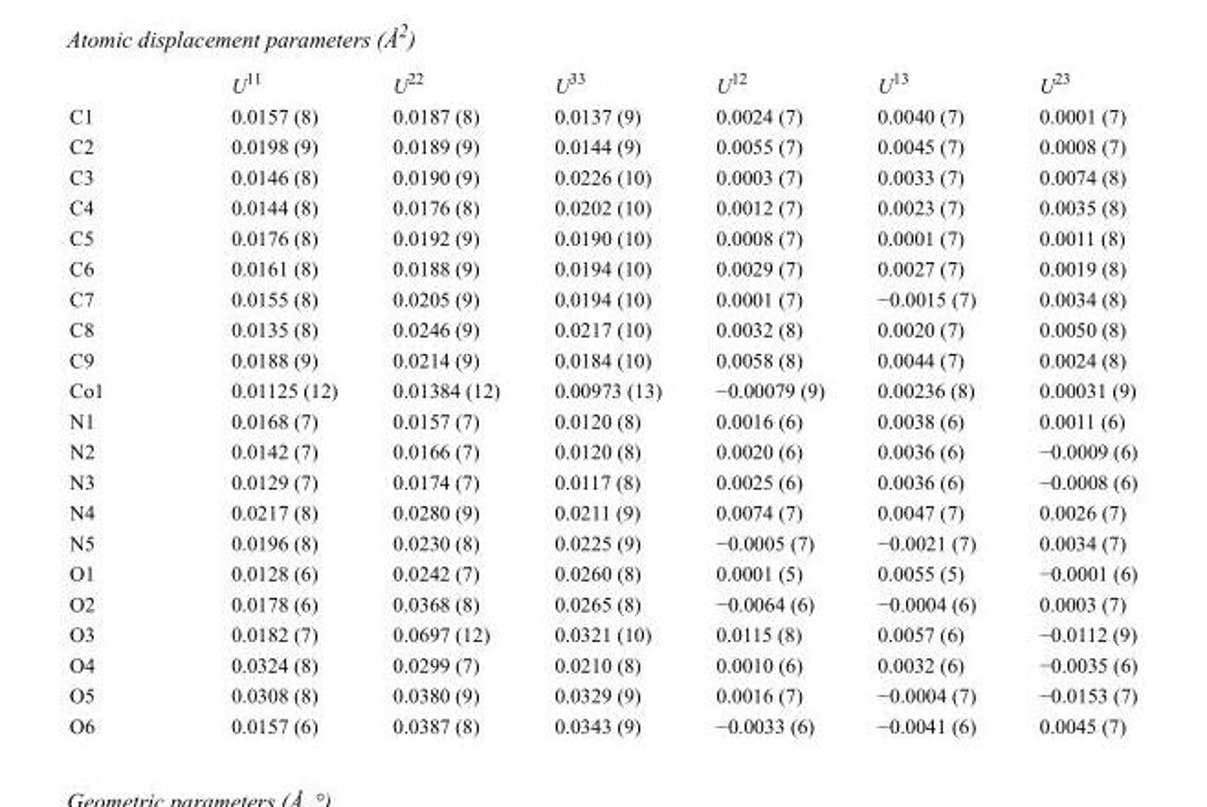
<table><thead><tr><td></td><td>U<sup>11</sup></td><td>U<sup>22</sup></td><td>U<sup>33</sup></td><td>U<sup>12</sup></td><td>U<sup>13</sup></td><td>U<sup>23</sup></td></tr></thead><tbody><tr><td>C1</td><td>0.0157 (8)</td><td>0.0187 (8)</td><td>0.0137 (9)</td><td>0.0024 (7)</td><td>0.0040 (7)</td><td>0.0001 (7)</td></tr><tr><td>C2</td><td>0.0198 (9)</td><td>0.0189 (9)</td><td>0.0144 (9)</td><td>0.0055 (7)</td><td>0.0045 (7)</td><td>0.0008 (7)</td></tr><tr><td>C3</td><td>0.0146 (8)</td><td>0.0190 (9)</td><td>0.0226 (10)</td><td>0.0003 (7)</td><td>0.0033 (7)</td><td>0.0074 (8)</td></tr><tr><td>C4</td><td>0.0144 (8)</td><td>0.0176 (8)</td><td>0.0202 (10)</td><td>0.0012 (7)</td><td>0.0023 (7)</td><td>0.0035 (8)</td></tr><tr><td>C5</td><td>0.0176 (8)</td><td>0.0192 (9)</td><td>0.0190 (10)</td><td>0.0008 (7)</td><td>0.0001 (7)</td><td>0.0011 (8)</td></tr><tr><td>C6</td><td>0.0161 (8)</td><td>0.0188 (9)</td><td>0.0194 (10)</td><td>0.0029 (7)</td><td>0.0027 (7)</td><td>0.0019 (8)</td></tr><tr><td>C7</td><td>0.0155 (8)</td><td>0.0205 (9)</td><td>0.0194 (10)</td><td>0.0001 (7)</td><td>−0.0015 (7)</td><td>0.0034 (8)</td></tr><tr><td>C8</td><td>0.0135 (8)</td><td>0.0246 (9)</td><td>0.0217 (10)</td><td>0.0032 (8)</td><td>0.0020 (7)</td><td>0.0050 (8)</td></tr><tr><td>C9</td><td>0.0188 (9)</td><td>0.0214 (9)</td><td>0.0184 (10)</td><td>0.0058 (8)</td><td>0.0044 (7)</td><td>0.0024 (8)</td></tr><tr><td>Co1</td><td>0.01125 (12)</td><td>0.01384 (12)</td><td>0.00973 (13)</td><td>−0.00079 (9)</td><td>0.00236 (8)</td><td>0.00031 (9)</td></tr><tr><td>N1</td><td>0.0168 (7)</td><td>0.0157 (7)</td><td>0.0120 (8)</td><td>0.0016 (6)</td><td>0.0038 (6)</td><td>0.0011 (6)</td></tr><tr><td>N2</td><td>0.0142 (7)</td><td>0.0166 (7)</td><td>0.0120 (8)</td><td>0.0020 (6)</td><td>0.0036 (6)</td><td>−0.0009 (6)</td></tr><tr><td>N3</td><td>0.0129 (7)</td><td>0.0174 (7)</td><td>0.0117 (8)</td><td>0.0025 (6)</td><td>0.0036 (6)</td><td>−0.0008 (6)</td></tr><tr><td>N4</td><td>0.0217 (8)</td><td>0.0280 (9)</td><td>0.0211 (9)</td><td>0.0074 (7)</td><td>0.0047 (7)</td><td>0.0026 (7)</td></tr><tr><td>N5</td><td>0.0196 (8)</td><td>0.0230 (8)</td><td>0.0225 (9)</td><td>−0.0005 (7)</td><td>−0.0021 (7)</td><td>0.0034 (7)</td></tr><tr><td>O1</td><td>0.0128 (6)</td><td>0.0242 (7)</td><td>0.0260 (8)</td><td>0.0001 (5)</td><td>0.0055 (5)</td><td>−0.0001 (6)</td></tr><tr><td>O2</td><td>0.0178 (6)</td><td>0.0368 (8)</td><td>0.0265 (8)</td><td>−0.0064 (6)</td><td>−0.0004 (6)</td><td>0.0003 (7)</td></tr><tr><td>O3</td><td>0.0182 (7)</td><td>0.0697 (12)</td><td>0.0321 (10)</td><td>0.0115 (8)</td><td>0.0057 (6)</td><td>−0.0112 (9)</td></tr><tr><td>O4</td><td>0.0324 (8)</td><td>0.0299 (7)</td><td>0.0210 (8)</td><td>0.0010 (6)</td><td>0.0032 (6)</td><td>−0.0035 (6)</td></tr><tr><td>O5</td><td>0.0308 (8)</td><td>0.0380 (9)</td><td>0.0329 (9)</td><td>0.0016 (7)</td><td>−0.0004 (7)</td><td>−0.0153 (7)</td></tr><tr><td>O6</td><td>0.0157 (6)</td><td>0.0387 (8)</td><td>0.0343 (9)</td><td>−0.0033 (6)</td><td>−0.0041 (6)</td><td>0.0045 (7)</td></tr></tbody></table>